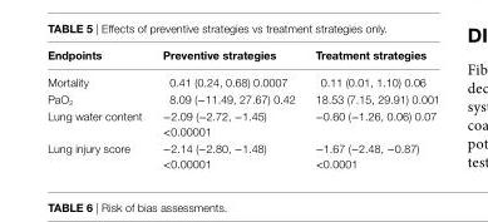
<table><thead><tr><td>endpoints</td><td>Preventive strategies</td><td>treatment strategies</td></tr></thead><tbody><tr><td>Mortality</td><td>0.41 (0.24, 0.68) 0.0007</td><td>0.11 (0.01, 1.10) 0.06</td></tr><tr><td>PaO<sub>2</sub></td><td>8.09 (−11.49, 27.67) 0.42</td><td>18.53 (7.15, 29.91) 0.001</td></tr><tr><td>Lung water content</td><td>−2.09 (−2.72, −1.45) &lt;0.00001</td><td>−0.60 (−1.26, 0.06) 0.07</td></tr><tr><td>Lung injury score</td><td>−2.14 (−2.80, −1.48) &lt;0.00001</td><td>−1.67 (−2.48, −0.87) &lt;0.0001</td></tr></tbody></table>